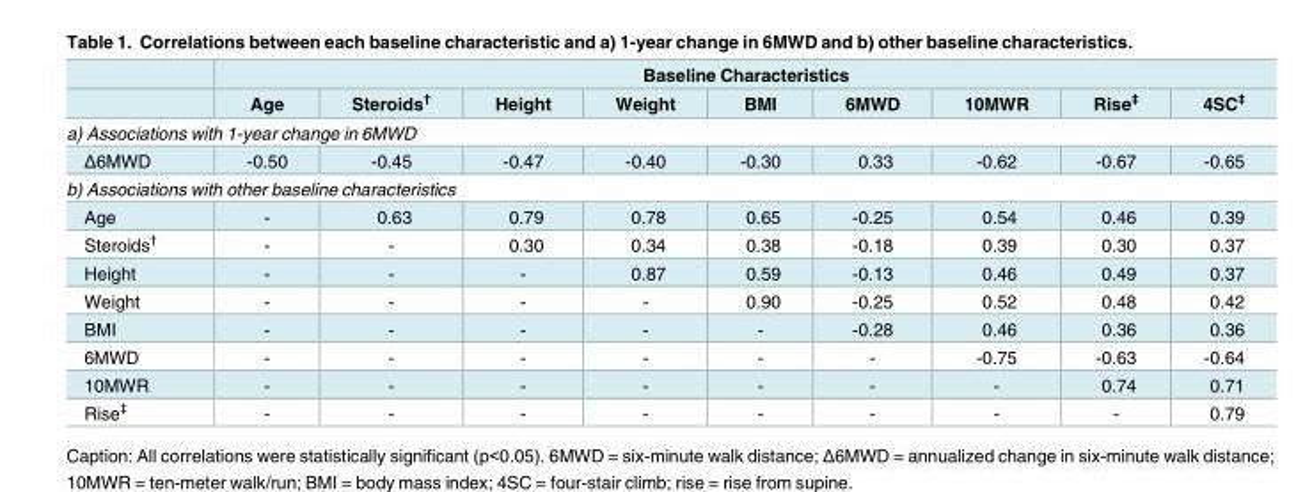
<table><thead><tr><td rowspan="2"></td><td colspan="9">Baseline Characteristics</td></tr><tr><td>Age</td><td>Steroids<sup>†</sup></td><td>Height</td><td>Weight</td><td>BMI</td><td>6MWD</td><td>10MWR</td><td>Rise<sup>‡</sup></td><td>4SC<sup>‡</sup></td></tr></thead><tbody><tr><td colspan="10">a) Associations with 1-year change in 6MWD</td></tr><tr><td>Δ6MWD</td><td>-0.50</td><td>-0.45</td><td>-0.47</td><td>-0.40</td><td>-0.30</td><td>0.33</td><td>-0.62</td><td>-0.67</td><td>-0.65</td></tr><tr><td colspan="10">b) Associations with other baseline characteristics</td></tr><tr><td>Age</td><td>-</td><td>0.63</td><td>0.79</td><td>0.78</td><td>0.65</td><td>-0.25</td><td>0.54</td><td>0.46</td><td>0.39</td></tr><tr><td>Steroids<sup>†</sup></td><td>-</td><td>-</td><td>0.30</td><td>0.34</td><td>0.38</td><td>-0.18</td><td>0.39</td><td>0.30</td><td>0.37</td></tr><tr><td>Height</td><td>-</td><td>-</td><td>-</td><td>0.87</td><td>0.59</td><td>-0.13</td><td>0.46</td><td>0.49</td><td>0.37</td></tr><tr><td>Weight</td><td>-</td><td>-</td><td>-</td><td>-</td><td>0.90</td><td>-0.25</td><td>0.52</td><td>0.48</td><td>0.42</td></tr><tr><td>BMI</td><td>-</td><td>-</td><td>-</td><td>-</td><td>-</td><td>-0.28</td><td>0.46</td><td>0.36</td><td>0.36</td></tr><tr><td>6MWD</td><td>-</td><td>-</td><td>-</td><td>-</td><td>-</td><td>-</td><td>-0.75</td><td>-0.63</td><td>-0.64</td></tr><tr><td>10MWR</td><td>-</td><td>-</td><td>-</td><td>-</td><td>-</td><td>-</td><td>-</td><td>0.74</td><td>0.71</td></tr><tr><td>Rise<sup>‡</sup></td><td>-</td><td>-</td><td>-</td><td>-</td><td>-</td><td>-</td><td>-</td><td>-</td><td>0.79</td></tr></tbody></table>